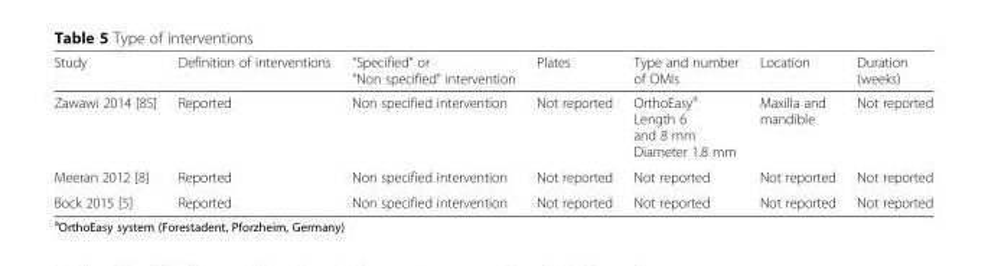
<table><thead><tr><td>Study</td><td>Definition of interventions</td><td>“Specified” or “Non specified” intervention</td><td>Plates</td><td>Type and number of OMIs</td><td>Location</td><td>Duration (weeks)</td></tr></thead><tbody><tr><td>Zawawi 2014 [85]</td><td>Reported</td><td>Non specified intervention</td><td>Not reported</td><td>OrthoEasy<sup>a</sup> Length 6 and 8 mm Diameter 1.8 mm</td><td>Maxilla and mandible</td><td>Not reported</td></tr><tr><td>Meeran 2012 [8]</td><td>Reported</td><td>Non specified intervention</td><td>Not reported</td><td>Not reported</td><td>Not reported</td><td>Not reported</td></tr><tr><td>Bock 2015 [5]</td><td>Reported</td><td>Non specified intervention</td><td>Not reported</td><td>Not reported</td><td>Not reported</td><td>Not reported</td></tr></tbody></table>